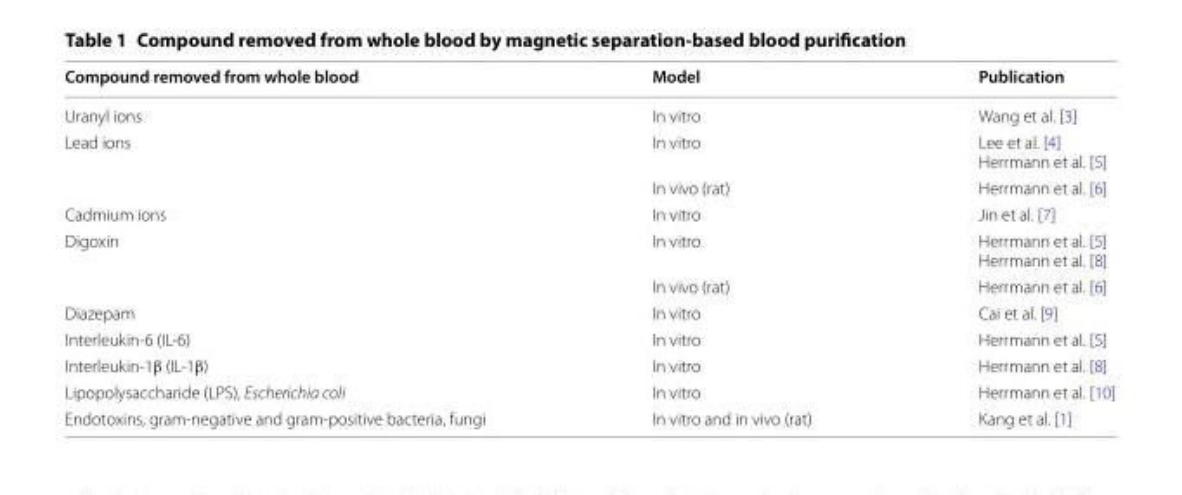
<table><thead><tr><td>Compound removed from whole blood</td><td>Model</td><td>Publication</td></tr></thead><tbody><tr><td>Uranyl ions</td><td>In vitro</td><td>Wang et al. [3]</td></tr><tr><td rowspan="2">Lead ions</td><td>In vitro</td><td>Lee et al. [4] Herrmann et al. [5]</td></tr><tr><td>In vivo (rat)</td><td>Herrmann et al. [6]</td></tr><tr><td>Cadmium ions</td><td>In vitro</td><td>Jin et al. [7]</td></tr><tr><td rowspan="2">Digoxin</td><td>In vitro</td><td>Herrmann et al. [5] Herrmann et al. [8]</td></tr><tr><td>In vivo (rat)</td><td>Herrmann et al. [6]</td></tr><tr><td>Diazepam</td><td>In vitro</td><td>Cai et al. [9]</td></tr><tr><td>Interleukin‑6 (IL‑6)</td><td>In vitro</td><td>Herrmann et al. [5]</td></tr><tr><td>Interleukin‑1β (IL‑1β)</td><td>In vitro</td><td>Herrmann et al. [8]</td></tr><tr><td>Lipopolysaccharide (LPS), Escherichia coli</td><td>In vitro</td><td>Herrmann et al. [10]</td></tr><tr><td>Endotoxins, gram‑negative and gram‑positive bacteria, fungi</td><td>In vitro and in vivo (rat)</td><td>Kang et al. [1]</td></tr></tbody></table>